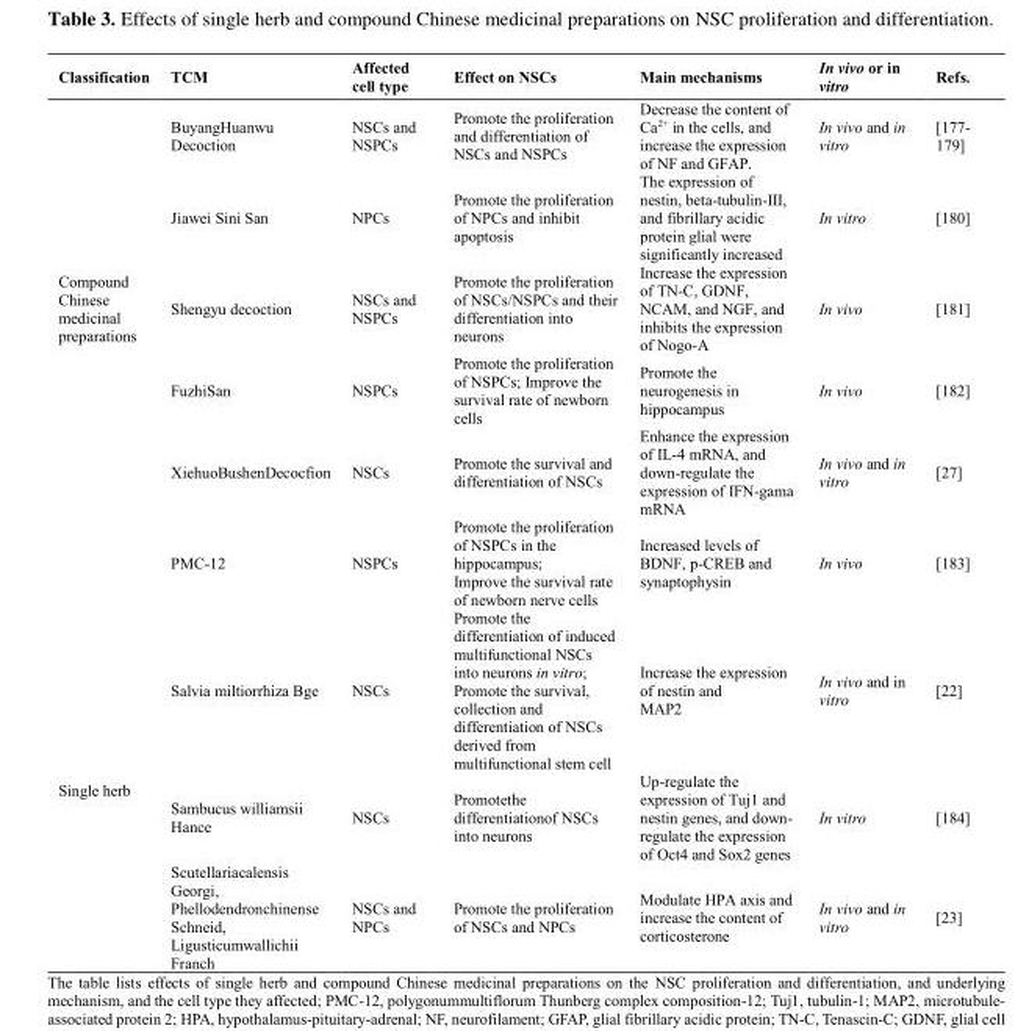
<table><thead><tr><td>Classification</td><td>TCM</td><td>Affected cell type</td><td>Effect on NSCs</td><td>Main mechanisms</td><td>In vivo or in vitro</td><td>Refs.</td></tr></thead><tbody><tr><td rowspan="6">Compound Chinese medicinal preparations</td><td>BuyangHuanwu Decoction</td><td>NSCs and NSPCs</td><td>Promote the proliferation and differentiation of NSCs and NSPCs</td><td>Decrease the content of Ca<sup>2+</sup> in the cells, and increase the expression of NF and GFAP.</td><td>In vivo and in vitro</td><td>[177- 179]</td></tr><tr><td>Jiawei Sini San</td><td>NPCs</td><td>Promote the proliferation of NPCs and inhibit apoptosis</td><td>The expression of nestin, beta-tubulin-III, and fibrillary acidic protein glial were significantly increased</td><td>In vitro</td><td>[180]</td></tr><tr><td>Shengyu decoction</td><td>NSCs and NSPCs</td><td>Promote the proliferation of NSCs/NSPCs and their differentiation into neurons</td><td>Increase the expression of TN-C, GDNF, NCAM, and NGF, and inhibits the expression of Nogo-A</td><td>In vivo</td><td>[181]</td></tr><tr><td>FuzhiSan</td><td>NSPCs</td><td>Promote the proliferation of NSPCs; Improve the survival rate of newborn cells</td><td>Promote the neurogenesis in hippocampus</td><td>In vivo</td><td>[182]</td></tr><tr><td>XiehuoBushenDecocfion</td><td>NSCs</td><td>Promote the survival and differentiation of NSCs</td><td>Enhance the expression of IL-4 mRNA, and down-regulate the expression of IFN-gama mRNA</td><td>In vivo and in vitro</td><td>[27]</td></tr><tr><td>PMC-12</td><td>NSPCs</td><td>Promote the proliferation of NSPCs in the hippocampus; Improve the survival rate of newborn nerve cells</td><td>Increased levels of BDNF, p-CREB and synaptophysin</td><td>In vivo</td><td>[183]</td></tr><tr><td rowspan="3">Single herb</td><td>Salvia miltiorrhiza Bge</td><td>NSCs</td><td>Promote the differentiation of induced multifunctional NSCs into neurons in vitro; Promote the survival, collection and differentiation of NSCs derived from multifunctional stem cell</td><td>Increase the expression of nestin and MAP2</td><td>In vivo and in vitro</td><td>[22]</td></tr><tr><td>Sambucus williamsii Hance</td><td>NSCs</td><td>Promotethe differentiationof NSCs into neurons</td><td>Up-regulate the expression of Tuj1 and nestin genes, and down- regulate the expression of Oct4 and Sox2 genes</td><td>In vitro</td><td>[184]</td></tr><tr><td>Scutellariacalensis Georgi, Phellodendronchinense Schneid, Ligusticumwallichii Franch</td><td>NSCs and NPCs</td><td>Promote the proliferation of NSCs and NPCs</td><td>Modulate HPA axis and increase the content of corticosterone</td><td>In vivo and in vitro</td><td>[23]</td></tr></tbody></table>